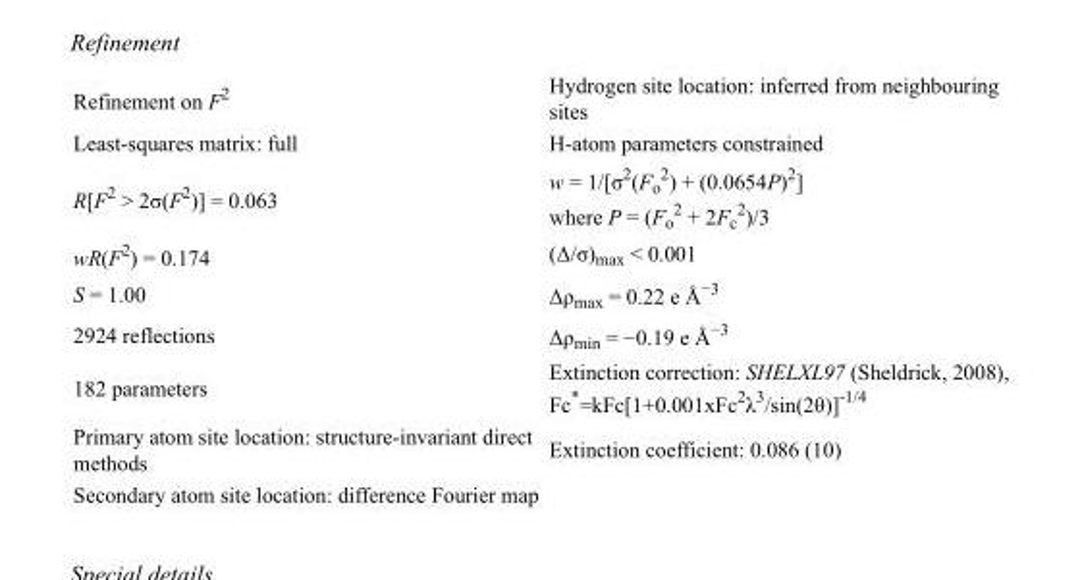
<table><tbody><tr><td>Refinement on F<sup>2</sup></td><td>Hydrogen site location: inferred from neighbouring sites</td></tr><tr><td>Least-squares matrix: full</td><td>H-atom parameters constrained</td></tr><tr><td>R[F<sup>2</sup> &gt; 2σ(F<sup>2</sup>)] = 0.063</td><td>w = 1/[σ<sup>2</sup>(F<sub>o</sub> <sup>2</sup>) + (0.0654P)<sup>2</sup>] where P = (F<sub>o</sub> <sup>2</sup> + 2F<sub>c</sub> <sup>2</sup>)/3</td></tr><tr><td>wR(F<sup>2</sup>) = 0.174</td><td>(Δ/σ)<sub>max</sub> &lt; 0.001</td></tr><tr><td>S = 1.00</td><td>Δρ<sub>max</sub> = 0.22 e Å<sup>−3</sup></td></tr><tr><td>2924 reflections</td><td>Δρ<sub>min</sub> = −0.19 e Å<sup>−3</sup></td></tr><tr><td>182 parameters</td><td>Extinction correction: SHELXL97 (Sheldrick, 2008), Fc*=kFc[1+0.001xFc<sup>2</sup>λ<sup>3</sup>/sin(2θ)]<sup>-1/4</sup></td></tr><tr><td>Primary atom site location: structure-invariant direct methods</td><td>Extinction coefficient: 0.086 (10)</td></tr><tr><td>Secondary atom site location: difference Fourier map</td><td></td></tr></tbody></table>